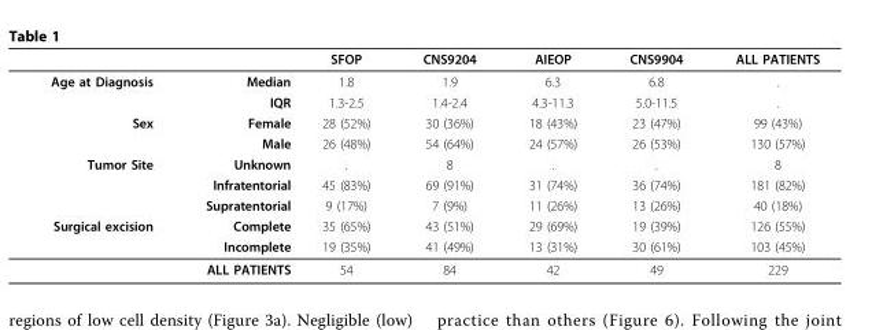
<table><thead><tr><td></td><td></td><td>SFOP</td><td>CNS9204</td><td>AIEOP</td><td>CNS9904</td><td>ALL PATIENTS</td></tr></thead><tbody><tr><td rowspan="2">Age at Diagnosis</td><td>Median</td><td>1.8</td><td>1.9</td><td>6.3</td><td>6.8</td><td>.</td></tr><tr><td>IQR</td><td>1.3-2.5</td><td>1.4-2.4</td><td>4.3-11.3</td><td>5.0-11.5</td><td>.</td></tr><tr><td rowspan="2">Sex</td><td>Female</td><td>28 (52%)</td><td>30 (36%)</td><td>18 (43%)</td><td>23 (47%)</td><td>99 (43%)</td></tr><tr><td>Male</td><td>26 (48%)</td><td>54 (64%)</td><td>24 (57%)</td><td>26 (53%)</td><td>130 (57%)</td></tr><tr><td rowspan="3">Tumor Site</td><td>Unknown</td><td>.</td><td>8</td><td>.</td><td>.</td><td>8</td></tr><tr><td>Infratentorial</td><td>45 (83%)</td><td>69 (91%)</td><td>31 (74%)</td><td>36 (74%)</td><td>181 (82%)</td></tr><tr><td>Supratentorial</td><td>9 (17%)</td><td>7 (9%)</td><td>11 (26%)</td><td>13 (26%)</td><td>40 (18%)</td></tr><tr><td rowspan="2">Surgical excision</td><td>Complete</td><td>35 (65%)</td><td>43 (51%)</td><td>29 (69%)</td><td>19 (39%)</td><td>126 (55%)</td></tr><tr><td>Incomplete</td><td>19 (35%)</td><td>41 (49%)</td><td>13 (31%)</td><td>30 (61%)</td><td>103 (45%)</td></tr><tr><td colspan="2">ALL PATIENTS</td><td>54</td><td>84</td><td>42</td><td>49</td><td>229</td></tr></tbody></table>